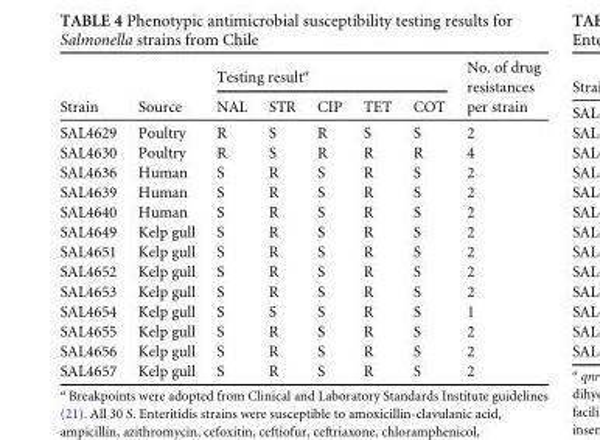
<table><thead><tr><td rowspan="2">Strain</td><td rowspan="2">Source</td><td colspan="5">Testing result<sup>a</sup></td><td rowspan="2">No. of drug resistances per strain</td></tr><tr><td>NAL</td><td>STR</td><td>CIP</td><td>TET</td><td>COT</td></tr></thead><tbody><tr><td>SAL4629</td><td>Poultry</td><td>R</td><td>S</td><td>R</td><td>S</td><td>S</td><td>2</td></tr><tr><td>SAL4630</td><td>Poultry</td><td>R</td><td>S</td><td>R</td><td>R</td><td>R</td><td>4</td></tr><tr><td>SAL4636</td><td>Human</td><td>S</td><td>R</td><td>S</td><td>R</td><td>S</td><td>2</td></tr><tr><td>SAL4639</td><td>Human</td><td>S</td><td>R</td><td>S</td><td>R</td><td>S</td><td>2</td></tr><tr><td>SAL4640</td><td>Human</td><td>S</td><td>R</td><td>S</td><td>R</td><td>S</td><td>2</td></tr><tr><td>SAL4649</td><td>Kelp gull</td><td>S</td><td>R</td><td>S</td><td>R</td><td>S</td><td>2</td></tr><tr><td>SAL4651</td><td>Kelp gull</td><td>S</td><td>R</td><td>S</td><td>R</td><td>S</td><td>2</td></tr><tr><td>SAL4652</td><td>Kelp gull</td><td>S</td><td>R</td><td>S</td><td>R</td><td>S</td><td>2</td></tr><tr><td>SAL4653</td><td>Kelp gull</td><td>S</td><td>R</td><td>S</td><td>R</td><td>S</td><td>2</td></tr><tr><td>SAL4654</td><td>Kelp gull</td><td>S</td><td>S</td><td>S</td><td>R</td><td>S</td><td>1</td></tr><tr><td>SAL4655</td><td>Kelp gull</td><td>S</td><td>R</td><td>S</td><td>R</td><td>S</td><td>2</td></tr><tr><td>SAL4656</td><td>Kelp gull</td><td>S</td><td>R</td><td>S</td><td>R</td><td>S</td><td>2</td></tr><tr><td>SAL4657</td><td>Kelp gull</td><td>S</td><td>R</td><td>S</td><td>R</td><td>S</td><td>2</td></tr></tbody></table>